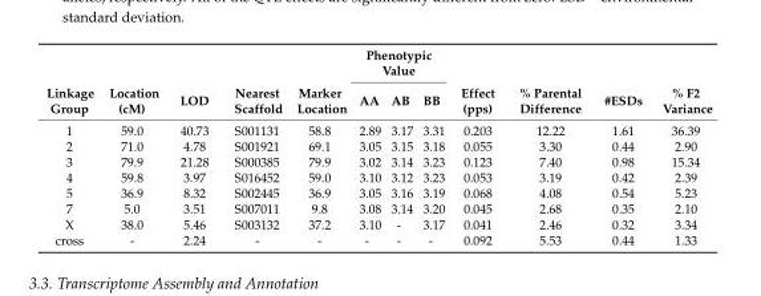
<table><thead><tr><td rowspan="2">Linkage Group</td><td rowspan="2">Location (cM)</td><td rowspan="2">LOD</td><td rowspan="2">Nearest Scaffold</td><td rowspan="2">Marker Location</td><td colspan="3">Phenotypic Value</td><td rowspan="2">Effect (pps)</td><td rowspan="2">% Parental Difference</td><td rowspan="2">#ESDs</td><td rowspan="2">% F2 Variance</td></tr><tr><td>AA</td><td>AB</td><td>BB</td></tr></thead><tbody><tr><td>1</td><td>59.0</td><td>40.73</td><td>S001131</td><td>58.8</td><td>2.89</td><td>3.17</td><td>3.31</td><td>0.203</td><td>12.22</td><td>1.61</td><td>36.39</td></tr><tr><td>2</td><td>71.0</td><td>4.78</td><td>S001921</td><td>69.1</td><td>3.05</td><td>3.15</td><td>3.18</td><td>0.055</td><td>3.30</td><td>0.44</td><td>2.90</td></tr><tr><td>3</td><td>79.9</td><td>21.28</td><td>S000385</td><td>79.9</td><td>3.02</td><td>3.14</td><td>3.23</td><td>0.123</td><td>7.40</td><td>0.98</td><td>15.34</td></tr><tr><td>4</td><td>59.8</td><td>3.97</td><td>S016452</td><td>59.0</td><td>3.10</td><td>3.12</td><td>3.23</td><td>0.053</td><td>3.19</td><td>0.42</td><td>2.39</td></tr><tr><td>5</td><td>36.9</td><td>8.32</td><td>S002445</td><td>36.9</td><td>3.05</td><td>3.16</td><td>3.19</td><td>0.068</td><td>4.08</td><td>0.54</td><td>5.23</td></tr><tr><td>7</td><td>5.0</td><td>3.51</td><td>S007011</td><td>9.8</td><td>3.08</td><td>3.14</td><td>3.20</td><td>0.045</td><td>2.68</td><td>0.35</td><td>2.10</td></tr><tr><td>X</td><td>38.0</td><td>5.46</td><td>S003132</td><td>37.2</td><td>3.10</td><td>-</td><td>3.17</td><td>0.041</td><td>2.46</td><td>0.32</td><td>3.34</td></tr><tr><td>cross</td><td>-</td><td>2.24</td><td>-</td><td>-</td><td>-</td><td>-</td><td>-</td><td>0.092</td><td>5.53</td><td>0.44</td><td>1.33</td></tr></tbody></table>